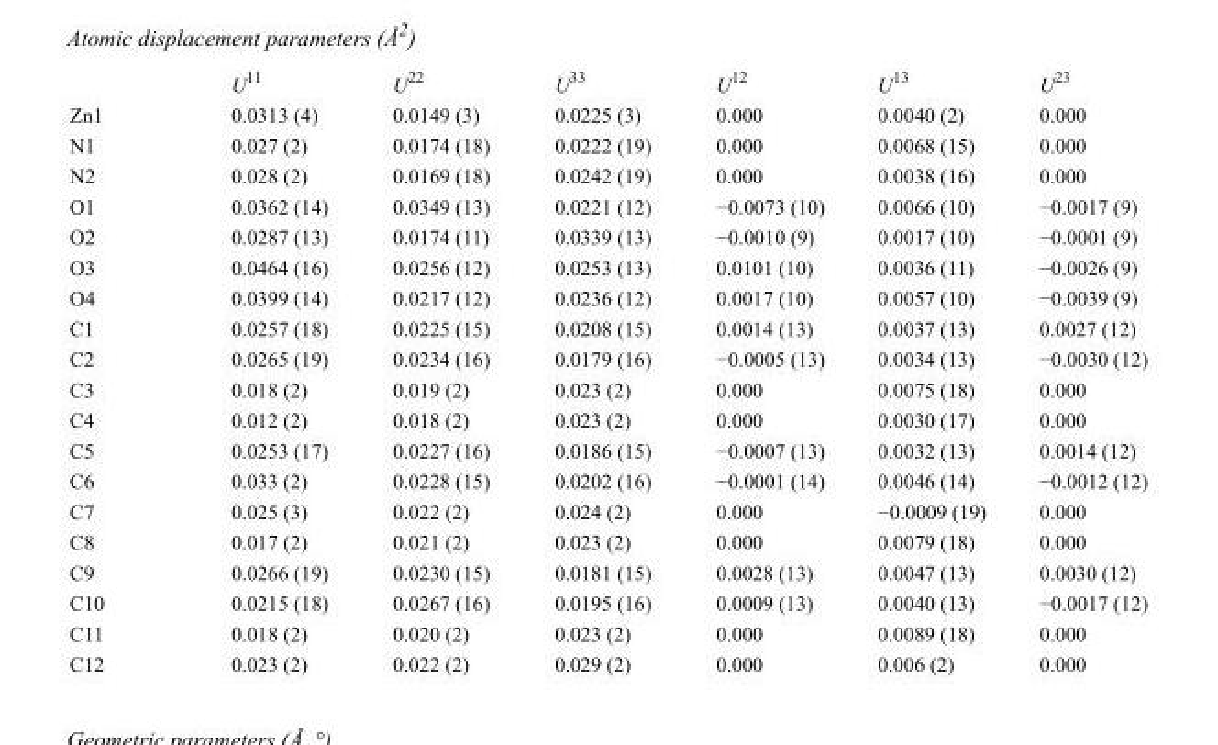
<table><thead><tr><td></td><td>U<sup>11</sup></td><td>U<sup>22</sup></td><td>U<sup>33</sup></td><td>U<sup>12</sup></td><td>U<sup>13</sup></td><td>U<sup>23</sup></td></tr></thead><tbody><tr><td>Zn1</td><td>0.0313 (4)</td><td>0.0149 (3)</td><td>0.0225 (3)</td><td>0.000</td><td>0.0040 (2)</td><td>0.000</td></tr><tr><td>N1</td><td>0.027 (2)</td><td>0.0174 (18)</td><td>0.0222 (19)</td><td>0.000</td><td>0.0068 (15)</td><td>0.000</td></tr><tr><td>N2</td><td>0.028 (2)</td><td>0.0169 (18)</td><td>0.0242 (19)</td><td>0.000</td><td>0.0038 (16)</td><td>0.000</td></tr><tr><td>O1</td><td>0.0362 (14)</td><td>0.0349 (13)</td><td>0.0221 (12)</td><td>−0.0073 (10)</td><td>0.0066 (10)</td><td>−0.0017 (9)</td></tr><tr><td>O2</td><td>0.0287 (13)</td><td>0.0174 (11)</td><td>0.0339 (13)</td><td>−0.0010 (9)</td><td>0.0017 (10)</td><td>−0.0001 (9)</td></tr><tr><td>O3</td><td>0.0464 (16)</td><td>0.0256 (12)</td><td>0.0253 (13)</td><td>0.0101 (10)</td><td>0.0036 (11)</td><td>−0.0026 (9)</td></tr><tr><td>O4</td><td>0.0399 (14)</td><td>0.0217 (12)</td><td>0.0236 (12)</td><td>0.0017 (10)</td><td>0.0057 (10)</td><td>−0.0039 (9)</td></tr><tr><td>C1</td><td>0.0257 (18)</td><td>0.0225 (15)</td><td>0.0208 (15)</td><td>0.0014 (13)</td><td>0.0037 (13)</td><td>0.0027 (12)</td></tr><tr><td>C2</td><td>0.0265 (19)</td><td>0.0234 (16)</td><td>0.0179 (16)</td><td>−0.0005 (13)</td><td>0.0034 (13)</td><td>−0.0030 (12)</td></tr><tr><td>C3</td><td>0.018 (2)</td><td>0.019 (2)</td><td>0.023 (2)</td><td>0.000</td><td>0.0075 (18)</td><td>0.000</td></tr><tr><td>C4</td><td>0.012 (2)</td><td>0.018 (2)</td><td>0.023 (2)</td><td>0.000</td><td>0.0030 (17)</td><td>0.000</td></tr><tr><td>C5</td><td>0.0253 (17)</td><td>0.0227 (16)</td><td>0.0186 (15)</td><td>−0.0007 (13)</td><td>0.0032 (13)</td><td>0.0014 (12)</td></tr><tr><td>C6</td><td>0.033 (2)</td><td>0.0228 (15)</td><td>0.0202 (16)</td><td>−0.0001 (14)</td><td>0.0046 (14)</td><td>−0.0012 (12)</td></tr><tr><td>C7</td><td>0.025 (3)</td><td>0.022 (2)</td><td>0.024 (2)</td><td>0.000</td><td>−0.0009 (19)</td><td>0.000</td></tr><tr><td>C8</td><td>0.017 (2)</td><td>0.021 (2)</td><td>0.023 (2)</td><td>0.000</td><td>0.0079 (18)</td><td>0.000</td></tr><tr><td>C9</td><td>0.0266 (19)</td><td>0.0230 (15)</td><td>0.0181 (15)</td><td>0.0028 (13)</td><td>0.0047 (13)</td><td>0.0030 (12)</td></tr><tr><td>C10</td><td>0.0215 (18)</td><td>0.0267 (16)</td><td>0.0195 (16)</td><td>0.0009 (13)</td><td>0.0040 (13)</td><td>−0.0017 (12)</td></tr><tr><td>C11</td><td>0.018 (2)</td><td>0.020 (2)</td><td>0.023 (2)</td><td>0.000</td><td>0.0089 (18)</td><td>0.000</td></tr><tr><td>C12</td><td>0.023 (2)</td><td>0.022 (2)</td><td>0.029 (2)</td><td>0.000</td><td>0.006 (2)</td><td>0.000</td></tr></tbody></table>